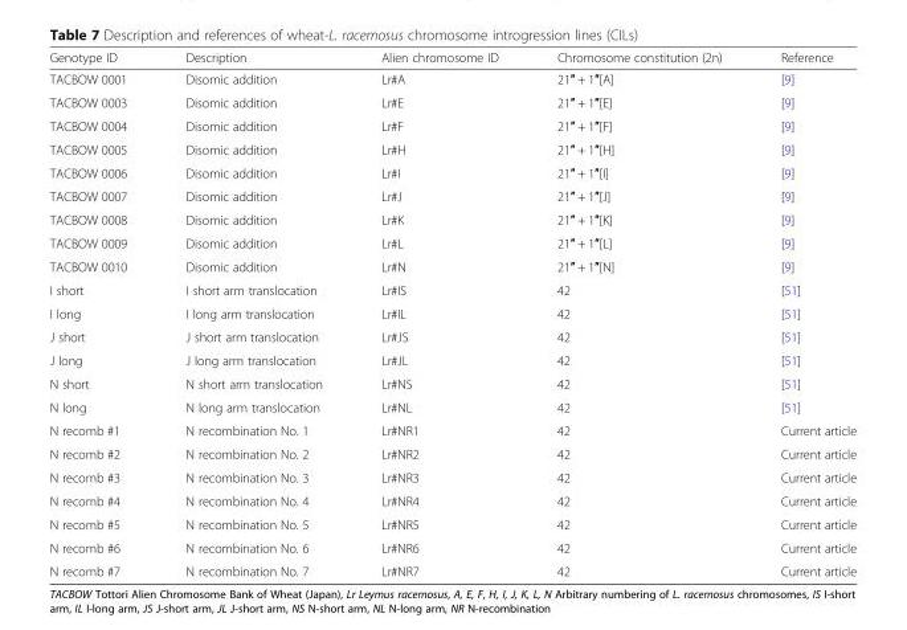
<table><thead><tr><td>Genotype ID</td><td>Description</td><td>Alien chromosome ID</td><td>Chromosome constitution (2n)</td><td>Reference</td></tr></thead><tbody><tr><td>TACBOW 0001</td><td>Disomic addition</td><td>Lr#A</td><td>21″ + 1″[A]</td><td>[9]</td></tr><tr><td>TACBOW 0003</td><td>Disomic addition</td><td>Lr#E</td><td>21″ + 1″[E]</td><td>[9]</td></tr><tr><td>TACBOW 0004</td><td>Disomic addition</td><td>Lr#F</td><td>21″ + 1″[F]</td><td>[9]</td></tr><tr><td>TACBOW 0005</td><td>Disomic addition</td><td>Lr#H</td><td>21″ + 1″[H]</td><td>[9]</td></tr><tr><td>TACBOW 0006</td><td>Disomic addition</td><td>Lr#I</td><td>21″ + 1″[I]</td><td>[9]</td></tr><tr><td>TACBOW 0007</td><td>Disomic addition</td><td>Lr#J</td><td>21″ + 1″[J]</td><td>[9]</td></tr><tr><td>TACBOW 0008</td><td>Disomic addition</td><td>Lr#K</td><td>21″ + 1″[K]</td><td>[9]</td></tr><tr><td>TACBOW 0009</td><td>Disomic addition</td><td>Lr#L</td><td>21″ + 1″[L]</td><td>[9]</td></tr><tr><td>TACBOW 0010</td><td>Disomic addition</td><td>Lr#N</td><td>21″ + 1″[N]</td><td>[9]</td></tr><tr><td>I short</td><td>I short arm translocation</td><td>Lr#IS</td><td>42</td><td>[51]</td></tr><tr><td>I long</td><td>I long arm translocation</td><td>Lr#IL</td><td>42</td><td>[51]</td></tr><tr><td>J short</td><td>J short arm translocation</td><td>Lr#JS</td><td>42</td><td>[51]</td></tr><tr><td>J long</td><td>J long arm translocation</td><td>Lr#JL</td><td>42</td><td>[51]</td></tr><tr><td>N short</td><td>N short arm translocation</td><td>Lr#NS</td><td>42</td><td>[51]</td></tr><tr><td>N long</td><td>N long arm translocation</td><td>Lr#NL</td><td>42</td><td>[51]</td></tr><tr><td>N recomb #1</td><td>N recombination No. 1</td><td>Lr#NR1</td><td>42</td><td>Current article</td></tr><tr><td>N recomb #2</td><td>N recombination No. 2</td><td>Lr#NR2</td><td>42</td><td>Current article</td></tr><tr><td>N recomb #3</td><td>N recombination No. 3</td><td>Lr#NR3</td><td>42</td><td>Current article</td></tr><tr><td>N recomb #4</td><td>N recombination No. 4</td><td>Lr#NR4</td><td>42</td><td>Current article</td></tr><tr><td>N recomb #5</td><td>N recombination No. 5</td><td>Lr#NR5</td><td>42</td><td>Current article</td></tr><tr><td>N recomb #6</td><td>N recombination No. 6</td><td>Lr#NR6</td><td>42</td><td>Current article</td></tr><tr><td>N recomb #7</td><td>N recombination No. 7</td><td>Lr#NR7</td><td>42</td><td>Current article</td></tr></tbody></table>